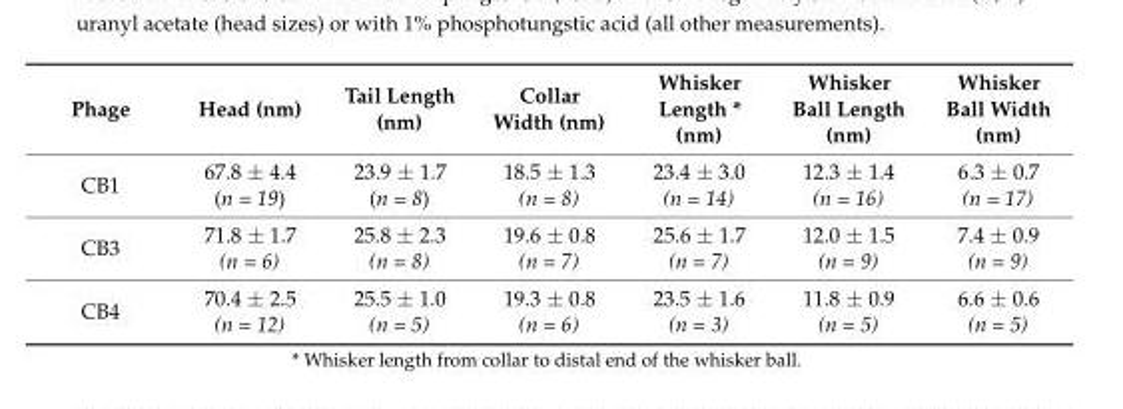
<table><thead><tr><td>Phage</td><td>Head (nm)</td><td>Tail Length (nm)</td><td>Collar Width (nm)</td><td>Whisker Length * (nm)</td><td>Whisker Ball Length (nm)</td><td>Whisker Ball Width (nm)</td></tr></thead><tbody><tr><td>CB1</td><td>67.8 ± 4.4 (n = 19)</td><td>23.9 ± 1.7 (n = 8)</td><td>18.5 ± 1.3 (n = 8)</td><td>23.4 ± 3.0 (n = 14)</td><td>12.3 ± 1.4 (n = 16)</td><td>6.3 ± 0.7 (n = 17)</td></tr><tr><td>CB3</td><td>71.8 ± 1.7 (n = 6)</td><td>25.8 ± 2.3 (n = 8)</td><td>19.6 ± 0.8 (n = 7)</td><td>25.6 ± 1.7 (n = 7)</td><td>12.0 ± 1.5 (n = 9)</td><td>7.4 ± 0.9 (n = 9)</td></tr><tr><td>CB4</td><td>70.4 ± 2.5 (n = 12)</td><td>25.5 ± 1.0 (n = 5)</td><td>19.3 ± 0.8 (n = 6)</td><td>23.5 ± 1.6 (n = 3)</td><td>11.8 ± 0.9 (n = 5)</td><td>6.6 ± 0.6 (n = 5)</td></tr></tbody></table>